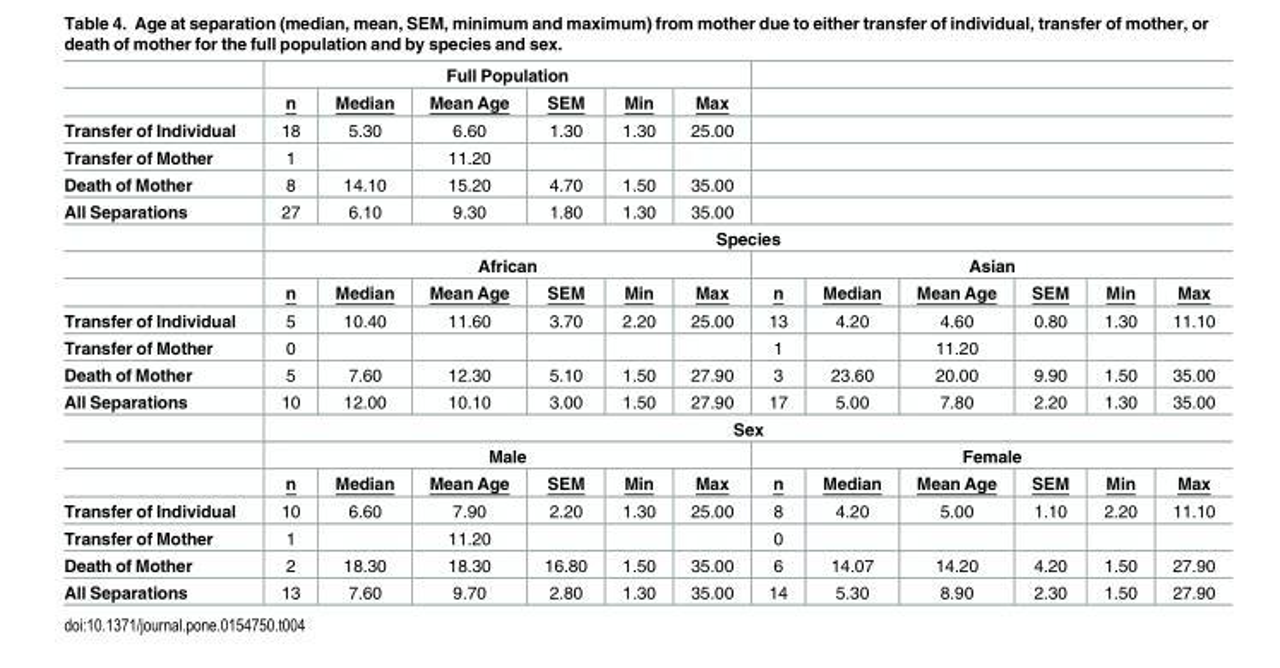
<table><thead><tr><td rowspan="2"></td><td colspan="6">Full Population</td><td></td><td></td><td></td><td></td><td></td><td></td></tr><tr><td>n</td><td>Median</td><td>Mean Age</td><td>SEM</td><td>Min</td><td>Max</td><td colspan="6"></td></tr></thead><tbody><tr><td>Transfer of Individual</td><td>18</td><td>5.30</td><td>6.60</td><td>1.30</td><td>1.30</td><td>25.00</td><td colspan="6"></td></tr><tr><td>Transfer of Mother</td><td>1</td><td></td><td>11.20</td><td></td><td></td><td></td><td colspan="6"></td></tr><tr><td>Death of Mother</td><td>8</td><td>14.10</td><td>15.20</td><td>4.70</td><td>1.50</td><td>35.00</td><td colspan="6"></td></tr><tr><td rowspan="4">All Separations</td><td>27</td><td>6.10</td><td>9.30</td><td>1.80</td><td>1.30</td><td>35.00</td><td colspan="6"></td></tr><tr><td colspan="12">Species</td></tr><tr><td colspan="6">African</td><td colspan="6">Asian</td></tr><tr><td>n</td><td>Median</td><td>Mean Age</td><td>SEM</td><td>Min</td><td>Max</td><td>n</td><td>Median</td><td>Mean Age</td><td>SEM</td><td>Min</td><td>Max</td></tr><tr><td>Transfer of Individual</td><td>5</td><td>10.40</td><td>11.60</td><td>3.70</td><td>2.20</td><td>25.00</td><td>13</td><td>4.20</td><td>4.60</td><td>0.80</td><td>1.30</td><td>11.10</td></tr><tr><td>Transfer of Mother</td><td>0</td><td></td><td></td><td></td><td></td><td></td><td>1</td><td></td><td>11.20</td><td></td><td></td><td></td></tr><tr><td>Death of Mother</td><td>5</td><td>7.60</td><td>12.30</td><td>5.10</td><td>1.50</td><td>27.90</td><td>3</td><td>23.60</td><td>20.00</td><td>9.90</td><td>1.50</td><td>35.00</td></tr><tr><td rowspan="4">All Separations</td><td>10</td><td>12.00</td><td>10.10</td><td>3.00</td><td>1.50</td><td>27.90</td><td>17</td><td>5.00</td><td>7.80</td><td>2.20</td><td>1.30</td><td>35.00</td></tr><tr><td colspan="12">Sex</td></tr><tr><td colspan="6">Male</td><td colspan="6">Female</td></tr><tr><td>n</td><td>Median</td><td>Mean Age</td><td>SEM</td><td>Min</td><td>Max</td><td>n</td><td>Median</td><td>Mean Age</td><td>SEM</td><td>Min</td><td>Max</td></tr><tr><td>Transfer of Individual</td><td>10</td><td>6.60</td><td>7.90</td><td>2.20</td><td>1.30</td><td>25.00</td><td>8</td><td>4.20</td><td>5.00</td><td>1.10</td><td>2.20</td><td>11.10</td></tr><tr><td>Transfer of Mother</td><td>1</td><td></td><td>11.20</td><td></td><td></td><td></td><td>0</td><td></td><td></td><td></td><td></td><td></td></tr><tr><td>Death of Mother</td><td>2</td><td>18.30</td><td>18.30</td><td>16.80</td><td>1.50</td><td>35.00</td><td>6</td><td>14.07</td><td>14.20</td><td>4.20</td><td>1.50</td><td>27.90</td></tr><tr><td>All Separations</td><td>13</td><td>7.60</td><td>9.70</td><td>2.80</td><td>1.30</td><td>35.00</td><td>14</td><td>5.30</td><td>8.90</td><td>2.30</td><td>1.50</td><td>27.90</td></tr></tbody></table>